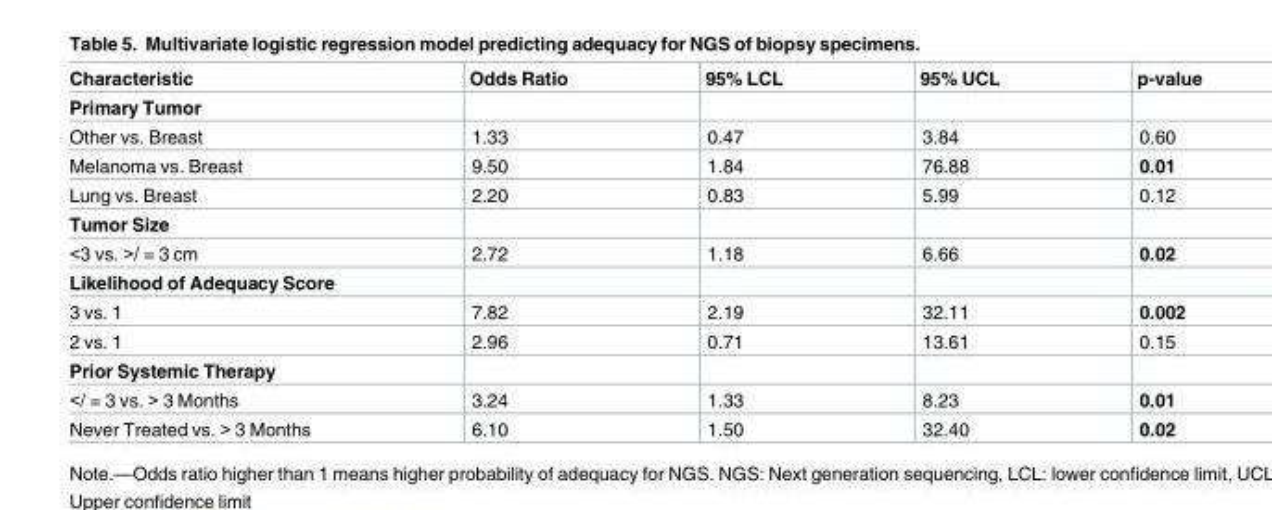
<table><thead><tr><td>Characteristic</td><td>Odds Ratio</td><td>95% LCL</td><td>95% UCL</td><td>p-value</td></tr></thead><tbody><tr><td colspan="5">Primary Tumor</td></tr><tr><td>Other vs. Breast</td><td>1.33</td><td>0.47</td><td>3.84</td><td>0.60</td></tr><tr><td>Melanoma vs. Breast</td><td>9.50</td><td>1.84</td><td>76.88</td><td>0.01</td></tr><tr><td>Lung vs. Breast</td><td>2.20</td><td>0.83</td><td>5.99</td><td>0.12</td></tr><tr><td colspan="5">Tumor Size</td></tr><tr><td>&lt;3 vs. &gt;/ = 3 cm</td><td>2.72</td><td>1.18</td><td>6.66</td><td>0.02</td></tr><tr><td colspan="5">Likelihood of Adequacy Score</td></tr><tr><td>3 vs. 1</td><td>7.82</td><td>2.19</td><td>32.11</td><td>0.002</td></tr><tr><td>2 vs. 1</td><td>2.96</td><td>0.71</td><td>13.61</td><td>0.15</td></tr><tr><td colspan="5">Prior Systemic Therapy</td></tr><tr><td>&lt;/ = 3 vs. &gt; 3 Months</td><td>3.24</td><td>1.33</td><td>8.23</td><td>0.01</td></tr><tr><td>Never Treated vs. &gt; 3 Months</td><td>6.10</td><td>1.50</td><td>32.40</td><td>0.02</td></tr></tbody></table>